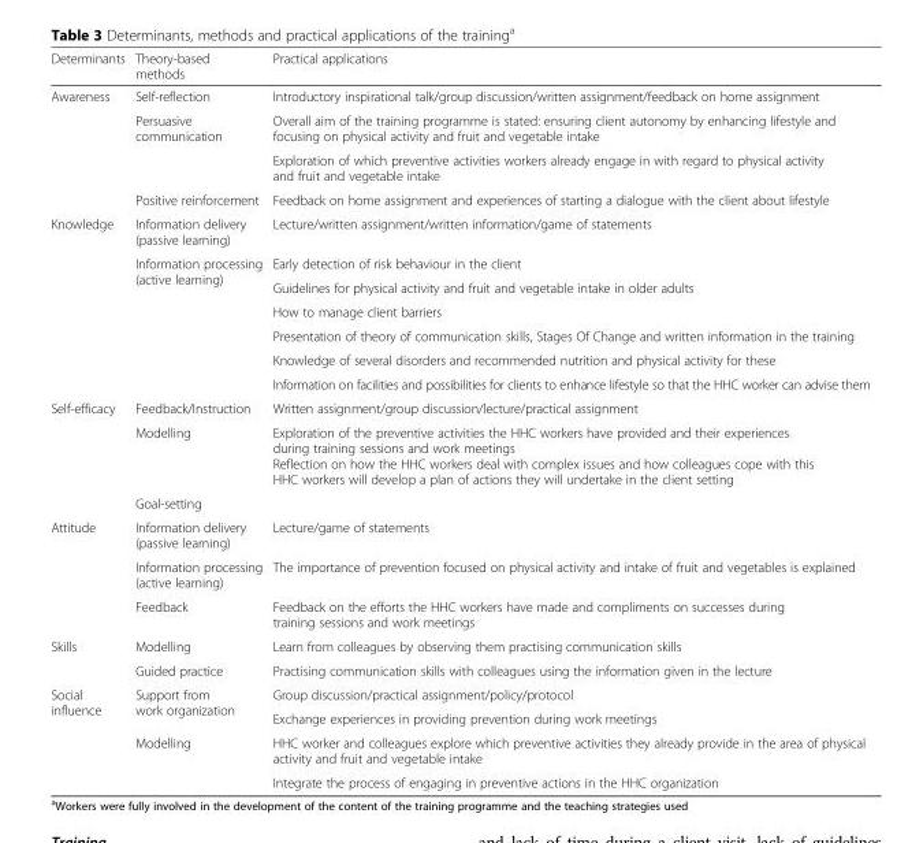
<table><thead><tr><td>Determinants</td><td>Theory-based methods</td><td>Practical applications</td></tr></thead><tbody><tr><td rowspan="4">Awareness</td><td>Self-reflection</td><td>Introductory inspirational talk/group discussion/written assignment/feedback on home assignment</td></tr><tr><td rowspan="2">Persuasive communication</td><td>Overall aim of the training programme is stated: ensuring client autonomy by enhancing lifestyle and focusing on physical activity and fruit and vegetable intake</td></tr><tr><td>Exploration of which preventive activities workers already engage in with regard to physical activity and fruit and vegetable intake</td></tr><tr><td>Positive reinforcement</td><td>Feedback on home assignment and experiences of starting a dialogue with the client about lifestyle</td></tr><tr><td rowspan="7">Knowledge</td><td>Information delivery (passive learning)</td><td>Lecture/written assignment/written information/game of statements</td></tr><tr><td rowspan="6">Information processing (active learning)</td><td>Early detection of risk behaviour in the client</td></tr><tr><td>Guidelines for physical activity and fruit and vegetable intake in older adults</td></tr><tr><td>How to manage client barriers</td></tr><tr><td>Presentation of theory of communication skills, Stages Of Change and written information in the training</td></tr><tr><td>Knowledge of several disorders and recommended nutrition and physical activity for these</td></tr><tr><td>Information on facilities and possibilities for clients to enhance lifestyle so that the HHC worker can advise them</td></tr><tr><td rowspan="3">Self-efficacy</td><td>Feedback/Instruction</td><td>Written assignment/group discussion/lecture/practical assignment</td></tr><tr><td>Modelling</td><td>Exploration of the preventive activities the HHC workers have provided and their experiences during training sessions and work meetings Reflection on how the HHC workers deal with complex issues and how colleagues cope with this HHC workers will develop a plan of actions they will undertake in the client setting</td></tr><tr><td>Goal-setting</td><td></td></tr><tr><td rowspan="3">Attitude</td><td>Information delivery (passive learning)</td><td>Lecture/game of statements</td></tr><tr><td>Information processing (active learning)</td><td>The importance of prevention focused on physical activity and intake of fruit and vegetables is explained</td></tr><tr><td>Feedback</td><td>Feedback on the efforts the HHC workers have made and compliments on successes during training sessions and work meetings</td></tr><tr><td rowspan="2">Skills</td><td>Modelling</td><td>Learn from colleagues by observing them practising communication skills</td></tr><tr><td>Guided practice</td><td>Practising communication skills with colleagues using the information given in the lecture</td></tr><tr><td rowspan="4">Social influence</td><td rowspan="2">Support from work organization</td><td>Group discussion/practical assignment/policy/protocol</td></tr><tr><td>Exchange experiences in providing prevention during work meetings</td></tr><tr><td rowspan="2">Modelling</td><td>HHC worker and colleagues explore which preventive activities they already provide in the area of physical activity and fruit and vegetable intake</td></tr><tr><td>Integrate the process of engaging in preventive actions in the HHC organization</td></tr></tbody></table>